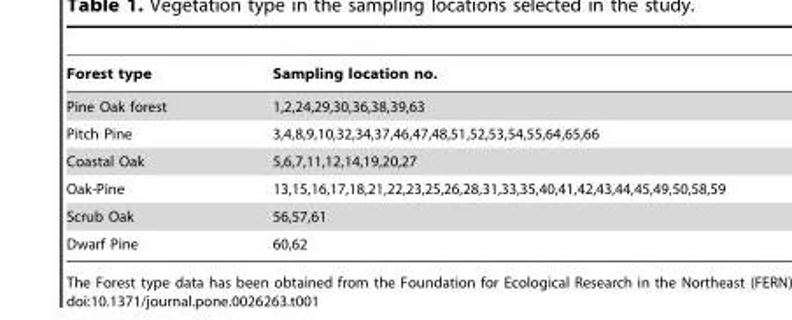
<table><thead><tr><td>Forest type</td><td>Sampling location no.</td></tr></thead><tbody><tr><td>Pine Oak forest</td><td>1,2,24,29,30,36,38,39,63</td></tr><tr><td>Pitch Pine</td><td>3,4,8,9,10,32,34,37,46,47,48,51,52,53,54,55,64,65,66</td></tr><tr><td>Coastal Oak</td><td>5,6,7,11,12,14,19,20,27</td></tr><tr><td>Oak-Pine</td><td>13,15,16,17,18,21,22,23,25,26,28,31,33,35,40,41,42,43,44,45,49,50,58,59</td></tr><tr><td>Scrub Oak</td><td>56,57,61</td></tr><tr><td>Dwarf Pine</td><td>60,62</td></tr></tbody></table>